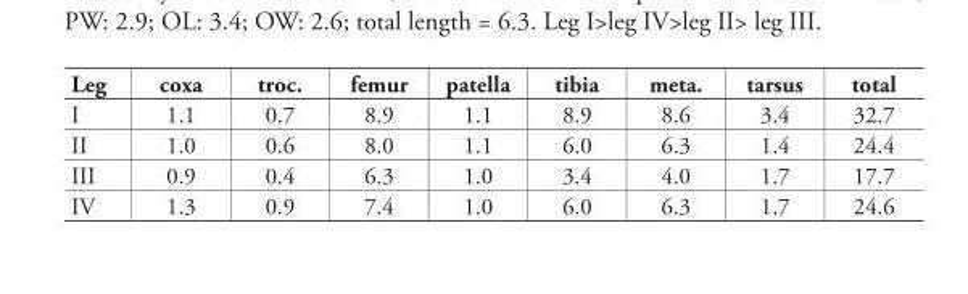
<table><thead><tr><td>Leg</td><td>coxa</td><td>troc.</td><td>femur</td><td>patella</td><td>tibia</td><td>meta.</td><td>tarsus</td><td>total</td></tr></thead><tbody><tr><td>I</td><td>1.1</td><td>0.7</td><td>8.9</td><td>1.1</td><td>8.9</td><td>8.6</td><td>3.4</td><td>32.7</td></tr><tr><td>II</td><td>1.0</td><td>0.6</td><td>8.0</td><td>1.1</td><td>6.0</td><td>6.3</td><td>1.4</td><td>24.4</td></tr><tr><td>III</td><td>0.9</td><td>0.4</td><td>6.3</td><td>1.0</td><td>3.4</td><td>4.0</td><td>1.7</td><td>17.7</td></tr><tr><td>IV</td><td>1.3</td><td>0.9</td><td>7.4</td><td>1.0</td><td>6.0</td><td>6.3</td><td>1.7</td><td>24.6</td></tr></tbody></table>